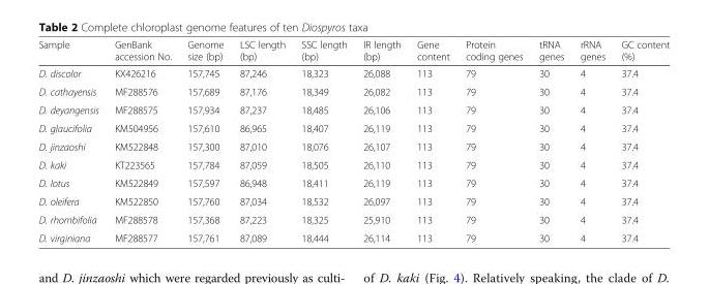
<table><thead><tr><td>Sample</td><td>GenBank accession No.</td><td>Genome size (bp)</td><td>LSC length (bp)</td><td>SSC length (bp)</td><td>IR length (bp)</td><td>Gene content</td><td>Protein coding genes</td><td>tRNA genes</td><td>rRNA genes</td><td>GC content (%)</td></tr></thead><tbody><tr><td>D. discolor</td><td>KX426216</td><td>157,745</td><td>87,246</td><td>18,323</td><td>26,088</td><td>113</td><td>79</td><td>30</td><td>4</td><td>37.4</td></tr><tr><td>D. cathayensis</td><td>MF288576</td><td>157,689</td><td>87,176</td><td>18,349</td><td>26,082</td><td>113</td><td>79</td><td>30</td><td>4</td><td>37.4</td></tr><tr><td>D. deyangensis</td><td>MF288575</td><td>157,934</td><td>87,237</td><td>18,485</td><td>26,106</td><td>113</td><td>79</td><td>30</td><td>4</td><td>37.4</td></tr><tr><td>D. glaucifolia</td><td>KM504956</td><td>157,610</td><td>86,965</td><td>18,407</td><td>26,119</td><td>113</td><td>79</td><td>30</td><td>4</td><td>37.4</td></tr><tr><td>D. jinzaoshi</td><td>KM522848</td><td>157,300</td><td>87,010</td><td>18,076</td><td>26,107</td><td>113</td><td>79</td><td>30</td><td>4</td><td>37.4</td></tr><tr><td>D. kaki</td><td>KT223565</td><td>157,784</td><td>87,059</td><td>18,505</td><td>26,110</td><td>113</td><td>79</td><td>30</td><td>4</td><td>37.4</td></tr><tr><td>D. lotus</td><td>KM522849</td><td>157,597</td><td>86,948</td><td>18,411</td><td>26,119</td><td>113</td><td>79</td><td>30</td><td>4</td><td>37.4</td></tr><tr><td>D. oleifera</td><td>KM522850</td><td>157,760</td><td>87,034</td><td>18,532</td><td>26,097</td><td>113</td><td>79</td><td>30</td><td>4</td><td>37.4</td></tr><tr><td>D. rhombifolia</td><td>MF288578</td><td>157,368</td><td>87,223</td><td>18,325</td><td>25,910</td><td>113</td><td>79</td><td>30</td><td>4</td><td>37.4</td></tr><tr><td>D. virginiana</td><td>MF288577</td><td>157,761</td><td>87,089</td><td>18,444</td><td>26,114</td><td>113</td><td>79</td><td>30</td><td>4</td><td>37.4</td></tr></tbody></table>